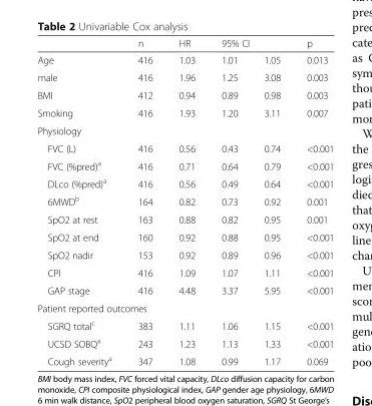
<table><thead><tr><td rowspan="2">Age</td><td rowspan="2">n 416</td><td rowspan="2">HR 1.03</td><td colspan="2">95% CI</td><td rowspan="2">p 0.013</td></tr><tr><td>1.01</td><td>1.05</td></tr></thead><tbody><tr><td>male</td><td>416</td><td>1.96</td><td>1.25</td><td>3.08</td><td>0.003</td></tr><tr><td>BMI</td><td>412</td><td>0.94</td><td>0.89</td><td>0.98</td><td>0.003</td></tr><tr><td>Smoking</td><td>416</td><td>1.93</td><td>1.20</td><td>3.11</td><td>0.007</td></tr><tr><td colspan="6">Physiology</td></tr><tr><td>FVC (L)</td><td>416</td><td>0.56</td><td>0.43</td><td>0.74</td><td>&lt;0.001</td></tr><tr><td>FVC (%pred)<sup>a</sup></td><td>416</td><td>0.71</td><td>0.64</td><td>0.79</td><td>&lt;0.001</td></tr><tr><td>DLco (%pred)<sup>a</sup></td><td>416</td><td>0.56</td><td>0.49</td><td>0.64</td><td>&lt;0.001</td></tr><tr><td>6MWD<sup>b</sup></td><td>164</td><td>0.82</td><td>0.73</td><td>0.92</td><td>0.001</td></tr><tr><td>SpO2 at rest</td><td>163</td><td>0.88</td><td>0.82</td><td>0.95</td><td>0.001</td></tr><tr><td>SpO2 at end</td><td>160</td><td>0.92</td><td>0.88</td><td>0.95</td><td>&lt;0.001</td></tr><tr><td>SpO2 nadir</td><td>153</td><td>0.92</td><td>0.89</td><td>0.96</td><td>&lt;0.001</td></tr><tr><td>CPI</td><td>416</td><td>1.09</td><td>1.07</td><td>1.11</td><td>&lt;0.001</td></tr><tr><td>GAP stage</td><td>416</td><td>4.48</td><td>3.37</td><td>5.95</td><td>&lt;0.001</td></tr><tr><td colspan="6">Patient reported outcomes</td></tr><tr><td>SGRQ total<sup>c</sup></td><td>383</td><td>1.11</td><td>1.06</td><td>1.15</td><td>&lt;0.001</td></tr><tr><td>UCSD SOBQ<sup>a</sup></td><td>243</td><td>1.23</td><td>1.13</td><td>1.33</td><td>&lt;0.001</td></tr><tr><td>Cough severity<sup>a</sup></td><td>347</td><td>1.08</td><td>0.99</td><td>1.17</td><td>0.069</td></tr></tbody></table>